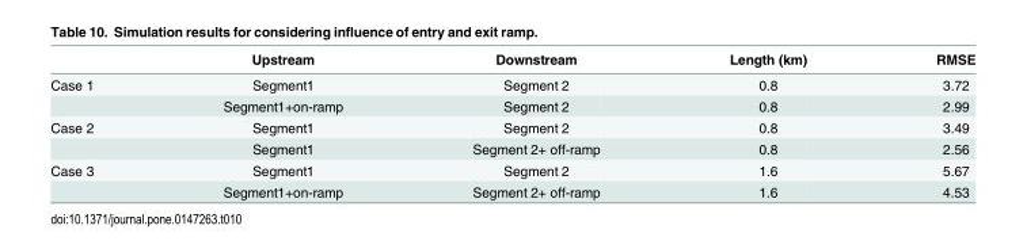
<table><thead><tr><td></td><td>Upstream</td><td>Downstream</td><td>Length (km)</td><td>RMSE</td></tr></thead><tbody><tr><td rowspan="2">Case 1</td><td>Segment1</td><td>Segment 2</td><td>0.8</td><td>3.72</td></tr><tr><td>Segment1+on-ramp</td><td>Segment 2</td><td>0.8</td><td>2.99</td></tr><tr><td rowspan="2">Case 2</td><td>Segment1</td><td>Segment 2</td><td>0.8</td><td>3.49</td></tr><tr><td>Segment1</td><td>Segment 2+ off-ramp</td><td>0.8</td><td>2.56</td></tr><tr><td rowspan="2">Case 3</td><td>Segment1</td><td>Segment 2</td><td>1.6</td><td>5.67</td></tr><tr><td>Segment1+on-ramp</td><td>Segment 2+ off-ramp</td><td>1.6</td><td>4.53</td></tr></tbody></table>